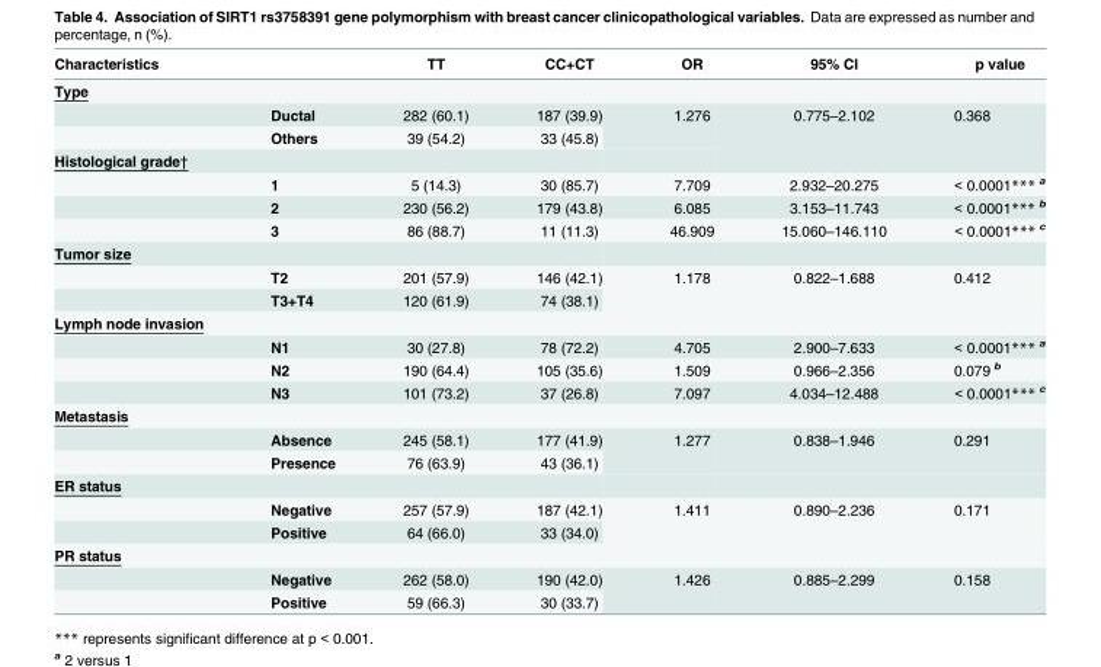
<table><thead><tr><td>Characteristics</td><td></td><td>TT</td><td>CC+CT</td><td>OR</td><td>95% CI</td><td>p value</td></tr></thead><tbody><tr><td colspan="7">Type</td></tr><tr><td></td><td>Ductal</td><td>282 (60.1)</td><td>187 (39.9)</td><td rowspan="2">1.276</td><td rowspan="2">0.775–2.102</td><td rowspan="2">0.368</td></tr><tr><td></td><td>Others</td><td>39 (54.2)</td><td>33 (45.8)</td></tr><tr><td colspan="7">Histological grade†</td></tr><tr><td></td><td>1</td><td>5 (14.3)</td><td>30 (85.7)</td><td>7.709</td><td>2.932–20.275</td><td>&lt; 0.0001*** <sup>a</sup></td></tr><tr><td></td><td>2</td><td>230 (56.2)</td><td>179 (43.8)</td><td>6.085</td><td>3.153–11.743</td><td>&lt; 0.0001*** <sup>b</sup></td></tr><tr><td></td><td>3</td><td>86 (88.7)</td><td>11 (11.3)</td><td>46.909</td><td>15.060–146.110</td><td>&lt; 0.0001*** <sup>c</sup></td></tr><tr><td colspan="7">Tumor size</td></tr><tr><td></td><td>T2</td><td>201 (57.9)</td><td>146 (42.1)</td><td rowspan="2">1.178</td><td rowspan="2">0.822–1.688</td><td rowspan="2">0.412</td></tr><tr><td></td><td>T3+T4</td><td>120 (61.9)</td><td>74 (38.1)</td></tr><tr><td colspan="7">Lymph node invasion</td></tr><tr><td></td><td>N1</td><td>30 (27.8)</td><td>78 (72.2)</td><td>4.705</td><td>2.900–7.633</td><td>&lt; 0.0001*** <sup>a</sup></td></tr><tr><td></td><td>N2</td><td>190 (64.4)</td><td>105 (35.6)</td><td>1.509</td><td>0.966–2.356</td><td>0.079 <sup>b</sup></td></tr><tr><td></td><td>N3</td><td>101 (73.2)</td><td>37 (26.8)</td><td>7.097</td><td>4.034–12.488</td><td>&lt; 0.0001*** <sup>c</sup></td></tr><tr><td colspan="7">Metastasis</td></tr><tr><td></td><td>Absence</td><td>245 (58.1)</td><td>177 (41.9)</td><td rowspan="2">1.277</td><td rowspan="2">0.838–1.946</td><td rowspan="2">0.291</td></tr><tr><td></td><td>Presence</td><td>76 (63.9)</td><td>43 (36.1)</td></tr><tr><td colspan="7">ER status</td></tr><tr><td></td><td>Negative</td><td>257 (57.9)</td><td>187 (42.1)</td><td rowspan="2">1.411</td><td rowspan="2">0.890–2.236</td><td rowspan="2">0.171</td></tr><tr><td></td><td>Positive</td><td>64 (66.0)</td><td>33 (34.0)</td></tr><tr><td colspan="7">PR status</td></tr><tr><td></td><td>Negative</td><td>262 (58.0)</td><td>190 (42.0)</td><td rowspan="2">1.426</td><td rowspan="2">0.885–2.299</td><td rowspan="2">0.158</td></tr><tr><td></td><td>Positive</td><td>59 (66.3)</td><td>30 (33.7)</td></tr></tbody></table>